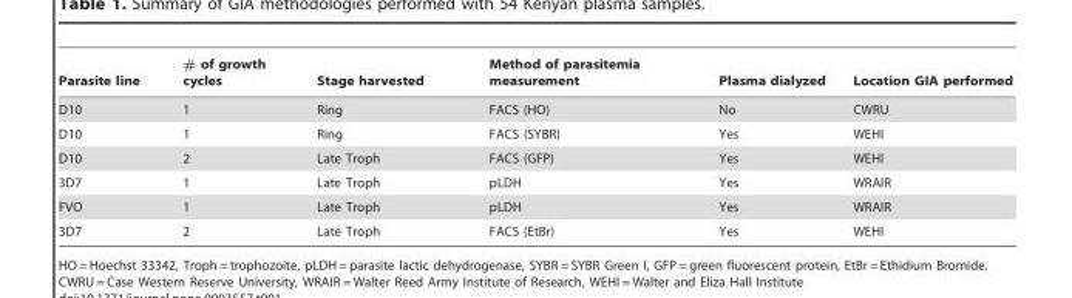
<table><thead><tr><td>Parasite line</td><td># of growth cycles</td><td>Stage harvested</td><td>Method of parasitemia measurement</td><td>Plasma dialyzed</td><td>Location GIA performed</td></tr></thead><tbody><tr><td>D10</td><td>1</td><td>Ring</td><td>FACS (HO)</td><td>No</td><td>CWRU</td></tr><tr><td>D10</td><td>1</td><td>Ring</td><td>FACS (SYBR)</td><td>Yes</td><td>WEHI</td></tr><tr><td>D10</td><td>2</td><td>Late Troph</td><td>FACS (GFP)</td><td>Yes</td><td>WEHI</td></tr><tr><td>3D7</td><td>1</td><td>Late Troph</td><td>pLDH</td><td>Yes</td><td>WRAIR</td></tr><tr><td>FVO</td><td>1</td><td>Late Troph</td><td>pLDH</td><td>Yes</td><td>WRAIR</td></tr><tr><td>3D7</td><td>2</td><td>Late Troph</td><td>FACS (EtBr)</td><td>Yes</td><td>WEHI</td></tr></tbody></table>